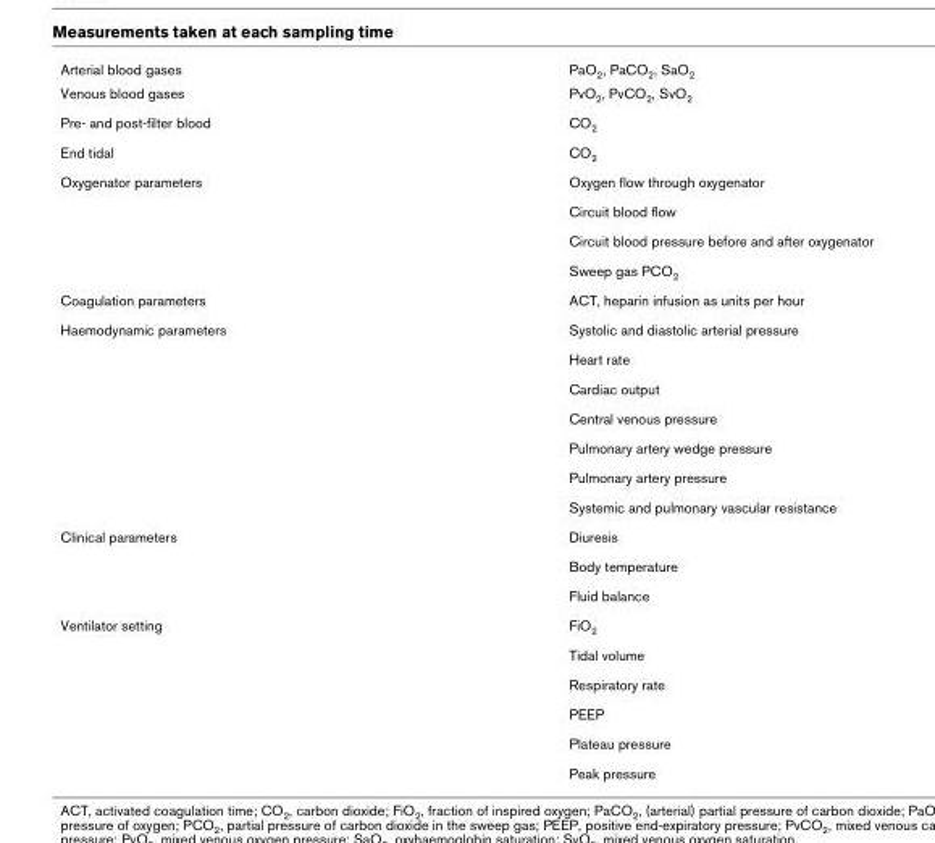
<table><tbody><tr><td>Arterial blood gases</td><td>PaO2, PaCO2, SaO2</td></tr><tr><td>Venous blood gases</td><td>PvO2, PvCO2, SvO2</td></tr><tr><td>Pre- and post-filter blood</td><td>CO2</td></tr><tr><td>End tidal</td><td>CO2</td></tr><tr><td rowspan="4">Oxygenator parameters</td><td>Oxygen flow through oxygenator</td></tr><tr><td>Circuit blood flow</td></tr><tr><td>Circuit blood pressure before and after oxygenator</td></tr><tr><td>Sweep gas PCO2</td></tr><tr><td>Coagulation parameters</td><td>ACT, heparin infusion as units per hour</td></tr><tr><td rowspan="7">Haemodynamic parameters</td><td>Systolic and diastolic arterial pressure</td></tr><tr><td>Heart rate</td></tr><tr><td>Cardiac output</td></tr><tr><td>Central venous pressure</td></tr><tr><td>Pulmonary artery wedge pressure</td></tr><tr><td>Pulmonary artery pressure</td></tr><tr><td>Systemic and pulmonary vascular resistance</td></tr><tr><td rowspan="3">Clinical parameters</td><td>Diuresis</td></tr><tr><td>Body temperature</td></tr><tr><td>Fluid balance</td></tr><tr><td rowspan="6">Ventilator setting</td><td>FiO2</td></tr><tr><td>Tidal volume</td></tr><tr><td>Respiratory rate</td></tr><tr><td>PEEP</td></tr><tr><td>Plateau pressure</td></tr><tr><td>Peak pressure</td></tr></tbody></table>